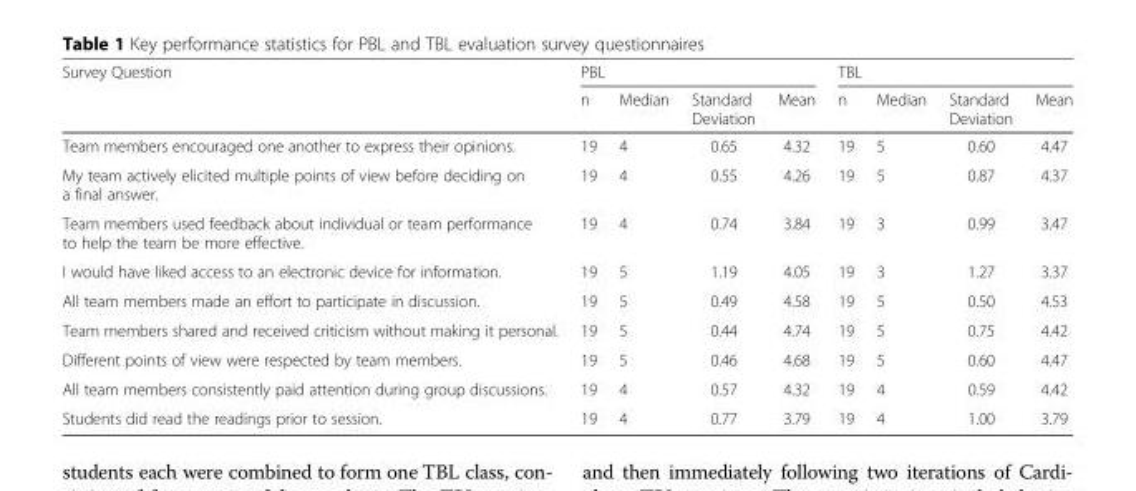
<table><thead><tr><td rowspan="2">Survey Question</td><td colspan="4">PBL</td><td colspan="4">TBL</td></tr><tr><td>n</td><td>Median</td><td>Standard Deviation</td><td>Mean</td><td>n</td><td>Median</td><td>Standard Deviation</td><td>Mean</td></tr></thead><tbody><tr><td>Team members encouraged one another to express their opinions.</td><td>19</td><td>4</td><td>0.65</td><td>4.32</td><td>19</td><td>5</td><td>0.60</td><td>4.47</td></tr><tr><td>My team actively elicited multiple points of view before deciding on a final answer.</td><td>19</td><td>4</td><td>0.55</td><td>4.26</td><td>19</td><td>5</td><td>0.87</td><td>4.37</td></tr><tr><td>Team members used feedback about individual or team performance to help the team be more effective.</td><td>19</td><td>4</td><td>0.74</td><td>3.84</td><td>19</td><td>3</td><td>0.99</td><td>3.47</td></tr><tr><td>I would have liked access to an electronic device for information.</td><td>19</td><td>5</td><td>1.19</td><td>4.05</td><td>19</td><td>3</td><td>1.27</td><td>3.37</td></tr><tr><td>All team members made an effort to participate in discussion.</td><td>19</td><td>5</td><td>0.49</td><td>4.58</td><td>19</td><td>5</td><td>0.50</td><td>4.53</td></tr><tr><td>Team members shared and received criticism without making it personal.</td><td>19</td><td>5</td><td>0.44</td><td>4.74</td><td>19</td><td>5</td><td>0.75</td><td>4.42</td></tr><tr><td>Different points of view were respected by team members.</td><td>19</td><td>5</td><td>0.46</td><td>4.68</td><td>19</td><td>5</td><td>0.60</td><td>4.47</td></tr><tr><td>All team members consistently paid attention during group discussions.</td><td>19</td><td>4</td><td>0.57</td><td>4.32</td><td>19</td><td>4</td><td>0.59</td><td>4.42</td></tr><tr><td>Students did read the readings prior to session.</td><td>19</td><td>4</td><td>0.77</td><td>3.79</td><td>19</td><td>4</td><td>1.00</td><td>3.79</td></tr></tbody></table>